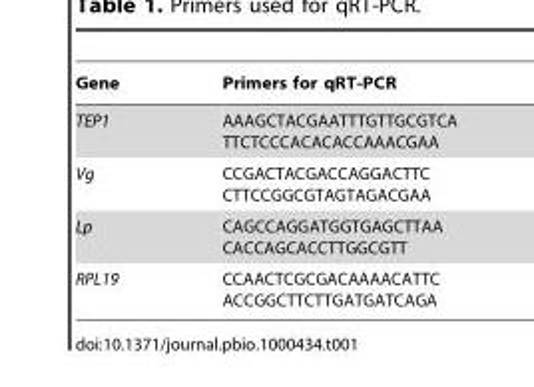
<table><thead><tr><td>Gene</td><td>Primers for qRT-PCR</td></tr></thead><tbody><tr><td>TEP1</td><td>AAAGCTACGAATTTGTTGCGTCA TTCTCCCACACACCAAACGAA</td></tr><tr><td>Vg</td><td>CCGACTACGACCAGGACTTC CTTCCGGCGTAGTAGACGAA</td></tr><tr><td>Lp</td><td>CAGCCAGGATGGTGAGCTTAA CACCAGCACCTTGGCGTT</td></tr><tr><td>RPL19</td><td>CCAACTCGCGACAAAACATTC ACCGGCTTCTTGATGATCAGA</td></tr></tbody></table>